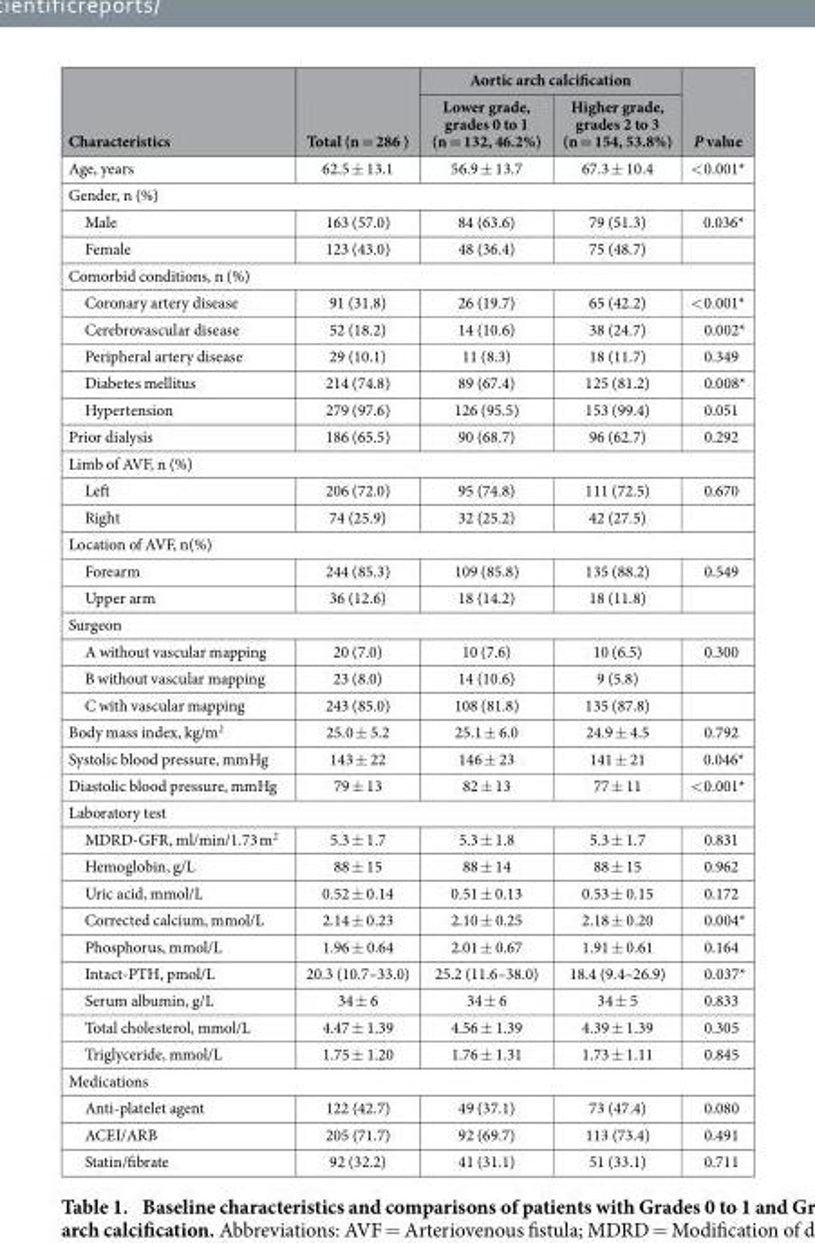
<table><thead><tr><td rowspan="2">Characteristics</td><td rowspan="2">Total (n = 286 )</td><td colspan="2">Aortic arch calcification</td><td rowspan="2">P value</td></tr><tr><td>Lower grade, grades 0 to 1 (n = 132, 46.2%)</td><td>Higher grade, grades 2 to 3 (n = 154, 53.8%)</td></tr></thead><tbody><tr><td>Age, years</td><td>62.5 ± 13.1</td><td>56.9 ± 13.7</td><td>67.3 ± 10.4</td><td>&lt; 0.001*</td></tr><tr><td colspan="5">Gender, n (%)</td></tr><tr><td>Male</td><td>163 (57.0)</td><td>84 (63.6)</td><td>79 (51.3)</td><td>0.036*</td></tr><tr><td>Female</td><td>123 (43.0)</td><td>48 (36.4)</td><td>75 (48.7)</td><td></td></tr><tr><td colspan="5">Comorbid conditions, n (%)</td></tr><tr><td>Coronary artery disease</td><td>91 (31.8)</td><td>26 (19.7)</td><td>65 (42.2)</td><td>&lt; 0.001*</td></tr><tr><td>Cerebrovascular disease</td><td>52 (18.2)</td><td>14 (10.6)</td><td>38 (24.7)</td><td>0.002*</td></tr><tr><td>Peripheral artery disease</td><td>29 (10.1)</td><td>11 (8.3)</td><td>18 (11.7)</td><td>0.349</td></tr><tr><td>Diabetes mellitus</td><td>214 (74.8)</td><td>89 (67.4)</td><td>125 (81.2)</td><td>0.008*</td></tr><tr><td>Hypertension</td><td>279 (97.6)</td><td>126 (95.5)</td><td>153 (99.4)</td><td>0.051</td></tr><tr><td>Prior dialysis</td><td>186 (65.5)</td><td>90 (68.7)</td><td>96 (62.7)</td><td>0.292</td></tr><tr><td colspan="5">Limb of AVF, n (%)</td></tr><tr><td>Left</td><td>206 (72.0)</td><td>95 (74.8)</td><td>111 (72.5)</td><td>0.670</td></tr><tr><td>Right</td><td>74 (25.9)</td><td>32 (25.2)</td><td>42 (27.5)</td><td></td></tr><tr><td colspan="5">Location of AVF, n(%)</td></tr><tr><td>Forearm</td><td>244 (85.3)</td><td>109 (85.8)</td><td>135 (88.2)</td><td>0.549</td></tr><tr><td>Upper arm</td><td>36 (12.6)</td><td>18 (14.2)</td><td>18 (11.8)</td><td></td></tr><tr><td colspan="5">Surgeon</td></tr><tr><td>A without vascular mapping</td><td>20 (7.0)</td><td>10 (7.6)</td><td>10 (6.5)</td><td>0.300</td></tr><tr><td>B without vascular mapping</td><td>23 (8.0)</td><td>14 (10.6)</td><td>9 (5.8)</td><td></td></tr><tr><td>C with vascular mapping</td><td>243 (85.0)</td><td>108 (81.8)</td><td>135 (87.8)</td><td></td></tr><tr><td>Body mass index, kg/m<sup>2</sup></td><td>25.0 ± 5.2</td><td>25.1 ± 6.0</td><td>24.9 ± 4.5</td><td>0.792</td></tr><tr><td>Systolic blood pressure, mmHg</td><td>143 ± 22</td><td>146 ± 23</td><td>141 ± 21</td><td>0.046*</td></tr><tr><td>Diastolic blood pressure, mmHg</td><td>79 ± 13</td><td>82 ± 13</td><td>77 ± 11</td><td>&lt; 0.001*</td></tr><tr><td colspan="5">Laboratory test</td></tr><tr><td>MDRD-GFR, ml/min/1.73 m<sup>2</sup></td><td>5.3 ± 1.7</td><td>5.3 ± 1.8</td><td>5.3 ± 1.7</td><td>0.831</td></tr><tr><td>Hemoglobin, g/L</td><td>88 ± 15</td><td>88 ± 14</td><td>88 ± 15</td><td>0.962</td></tr><tr><td>Uric acid, mmol/L</td><td>0.52 ± 0.14</td><td>0.51 ± 0.13</td><td>0.53 ± 0.15</td><td>0.172</td></tr><tr><td>Corrected calcium, mmol/L</td><td>2.14 ± 0.23</td><td>2.10 ± 0.25</td><td>2.18 ± 0.20</td><td>0.004*</td></tr><tr><td>Phosphorus, mmol/L</td><td>1.96 ± 0.64</td><td>2.01 ± 0.67</td><td>1.91 ± 0.61</td><td>0.164</td></tr><tr><td>Intact-PTH, pmol/L</td><td>20.3 (10.7–33.0)</td><td>25.2 (11.6–38.0)</td><td>18.4 (9.4–26.9)</td><td>0.037*</td></tr><tr><td>Serum albumin, g/L</td><td>34 ± 6</td><td>34 ± 6</td><td>34 ± 5</td><td>0.833</td></tr><tr><td>Total cholesterol, mmol/L</td><td>4.47 ± 1.39</td><td>4.56 ± 1.39</td><td>4.39 ± 1.39</td><td>0.305</td></tr><tr><td>Triglyceride, mmol/L</td><td>1.75 ± 1.20</td><td>1.76 ± 1.31</td><td>1.73 ± 1.11</td><td>0.845</td></tr><tr><td colspan="5">Medications</td></tr><tr><td>Anti-platelet agent</td><td>122 (42.7)</td><td>49 (37.1)</td><td>73 (47.4)</td><td>0.080</td></tr><tr><td>ACEI/ARB</td><td>205 (71.7)</td><td>92 (69.7)</td><td>113 (73.4)</td><td>0.491</td></tr><tr><td>Statin/fibrate</td><td>92 (32.2)</td><td>41 (31.1)</td><td>51 (33.1)</td><td>0.711</td></tr></tbody></table>